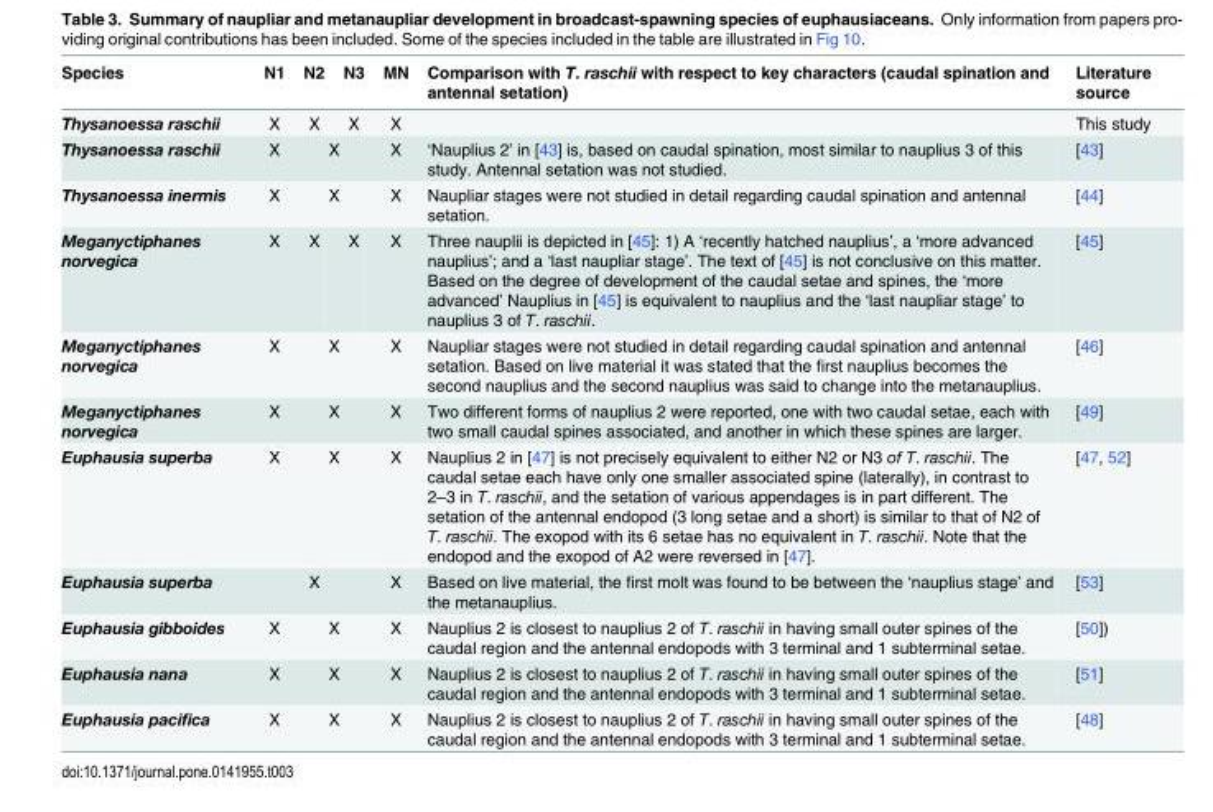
<table><thead><tr><td>Species</td><td>N1</td><td>N2</td><td>N3</td><td>MN</td><td>Comparison with T. raschii with respect to key characters (caudal spination and antennal setation)</td><td>Literature source</td></tr></thead><tbody><tr><td>Thysanoessa raschii</td><td>X</td><td>X</td><td>X</td><td>X</td><td></td><td>This study</td></tr><tr><td>Thysanoessa raschii</td><td>X</td><td colspan="2">X</td><td>X</td><td>‘Nauplius 2’ in [43] is, based on caudal spination, most similar to nauplius 3 of this study. Antennal setation was not studied.</td><td>[43]</td></tr><tr><td>Thysanoessa inermis</td><td>X</td><td colspan="2">X</td><td>X</td><td>Naupliar stages were not studied in detail regarding caudal spination and antennal setation.</td><td>[44]</td></tr><tr><td>Meganyctiphanes norvegica</td><td>X</td><td>X</td><td>X</td><td>X</td><td>Three nauplii is depicted in [45]: 1) A ‘recently hatched nauplius’, a ‘more advanced nauplius’; and a ‘last naupliar stage’. The text of [45] is not conclusive on this matter. Based on the degree of development of the caudal setae and spines, the ‘more advanced’ Nauplius in [45] is equivalent to nauplius and the ‘last naupliar stage’ to nauplius 3 of T. raschii.</td><td>[45]</td></tr><tr><td>Meganyctiphanes norvegica</td><td>X</td><td colspan="2">X</td><td>X</td><td>Naupliar stages were not studied in detail regarding caudal spination and antennal setation. Based on live material it was stated that the first nauplius becomes the second nauplius and the second nauplius was said to change into the metanauplius.</td><td>[46]</td></tr><tr><td>Meganyctiphanes norvegica</td><td>X</td><td colspan="2">X</td><td>X</td><td>Two different forms of nauplius 2 were reported, one with two caudal setae, each with two small caudal spines associated, and another in which these spines are larger.</td><td>[49]</td></tr><tr><td>Euphausia superba</td><td>X</td><td colspan="2">X</td><td>X</td><td>Nauplius 2 in [47] is not precisely equivalent to either N2 or N3 of T. raschii. The caudal setae each have only one smaller associated spine (laterally), in contrast to 2–3 in T. raschii, and the setation of various appendages is in part different. The setation of the antennal endopod (3 long setae and a short) is similar to that of N2 of T. raschii. The exopod with its 6 setae has no equivalent in T. raschii. Note that the endopod and the exopod of A2 were reversed in [47].</td><td>[47, 52]</td></tr><tr><td>Euphausia superba</td><td colspan="3">X</td><td>X</td><td>Based on live material, the first molt was found to be between the ‘nauplius stage’ and the metanauplius.</td><td>[53]</td></tr><tr><td>Euphausia gibboides</td><td>X</td><td colspan="2">X</td><td>X</td><td>Nauplius 2 is closest to nauplius 2 of T. raschii in having small outer spines of the caudal region and the antennal endopods with 3 terminal and 1 subterminal setae.</td><td>[50])</td></tr><tr><td>Euphausia nana</td><td>X</td><td colspan="2">X</td><td>X</td><td>Nauplius 2 is closest to nauplius 2 of T. raschii in having small outer spines of the caudal region and the antennal endopods with 3 terminal and 1 subterminal setae.</td><td>[51]</td></tr><tr><td>Euphausia pacifica</td><td>X</td><td colspan="2">X</td><td>X</td><td>Nauplius 2 is closest to nauplius 2 of T. raschii in having small outer spines of the caudal region and the antennal endopods with 3 terminal and 1 subterminal setae.</td><td>[48]</td></tr></tbody></table>